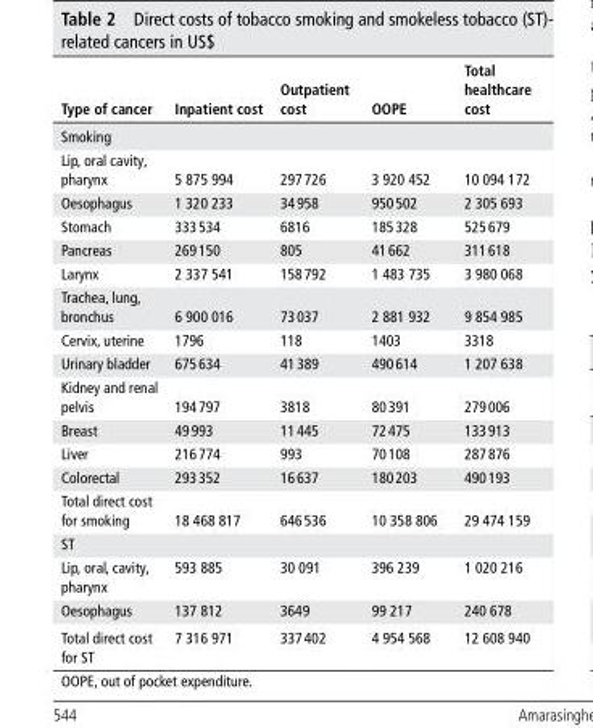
<table><thead><tr><td>Type of cancer</td><td>Inpatient cost</td><td>outpatient cost</td><td>ooPe</td><td>Total healthcare cost</td></tr></thead><tbody><tr><td colspan="5">Smoking</td></tr><tr><td>Lip, oral cavity, pharynx</td><td>5 875 994</td><td>297 726</td><td>3 920 452</td><td>10 094 172</td></tr><tr><td>Oesophagus</td><td>1 320 233</td><td>34 958</td><td>950 502</td><td>2 305 693</td></tr><tr><td>Stomach</td><td>333 534</td><td>6816</td><td>185 328</td><td>525 679</td></tr><tr><td>Pancreas</td><td>269 150</td><td>805</td><td>41 662</td><td>311 618</td></tr><tr><td>Larynx</td><td>2 337 541</td><td>158 792</td><td>1 483 735</td><td>3 980 068</td></tr><tr><td>Trachea, lung, bronchus</td><td>6 900 016</td><td>73 037</td><td>2 881 932</td><td>9 854 985</td></tr><tr><td>Cervix, uterine</td><td>1796</td><td>118</td><td>1403</td><td>3318</td></tr><tr><td>Urinary bladder</td><td>675 634</td><td>41 389</td><td>490 614</td><td>1 207 638</td></tr><tr><td>Kidney and renal pelvis</td><td>194 797</td><td>3818</td><td>80 391</td><td>279 006</td></tr><tr><td>Breast</td><td>49 993</td><td>11 445</td><td>72 475</td><td>133 913</td></tr><tr><td>Liver</td><td>216 774</td><td>993</td><td>70 108</td><td>287 876</td></tr><tr><td>Colorectal</td><td>293 352</td><td>16 637</td><td>180 203</td><td>490 193</td></tr><tr><td>Total direct cost for smoking</td><td>18 468 817</td><td>646 536</td><td>10 358 806</td><td>29 474 159</td></tr><tr><td colspan="5">ST</td></tr><tr><td>Lip, oral, cavity, pharynx</td><td>593 885</td><td>30 091</td><td>396 239</td><td>1 020 216</td></tr><tr><td>Oesophagus</td><td>137 812</td><td>3649</td><td>99 217</td><td>240 678</td></tr><tr><td>Total direct cost for ST</td><td>7 316 971</td><td>337 402</td><td>4 954 568</td><td>12 608 940</td></tr></tbody></table>